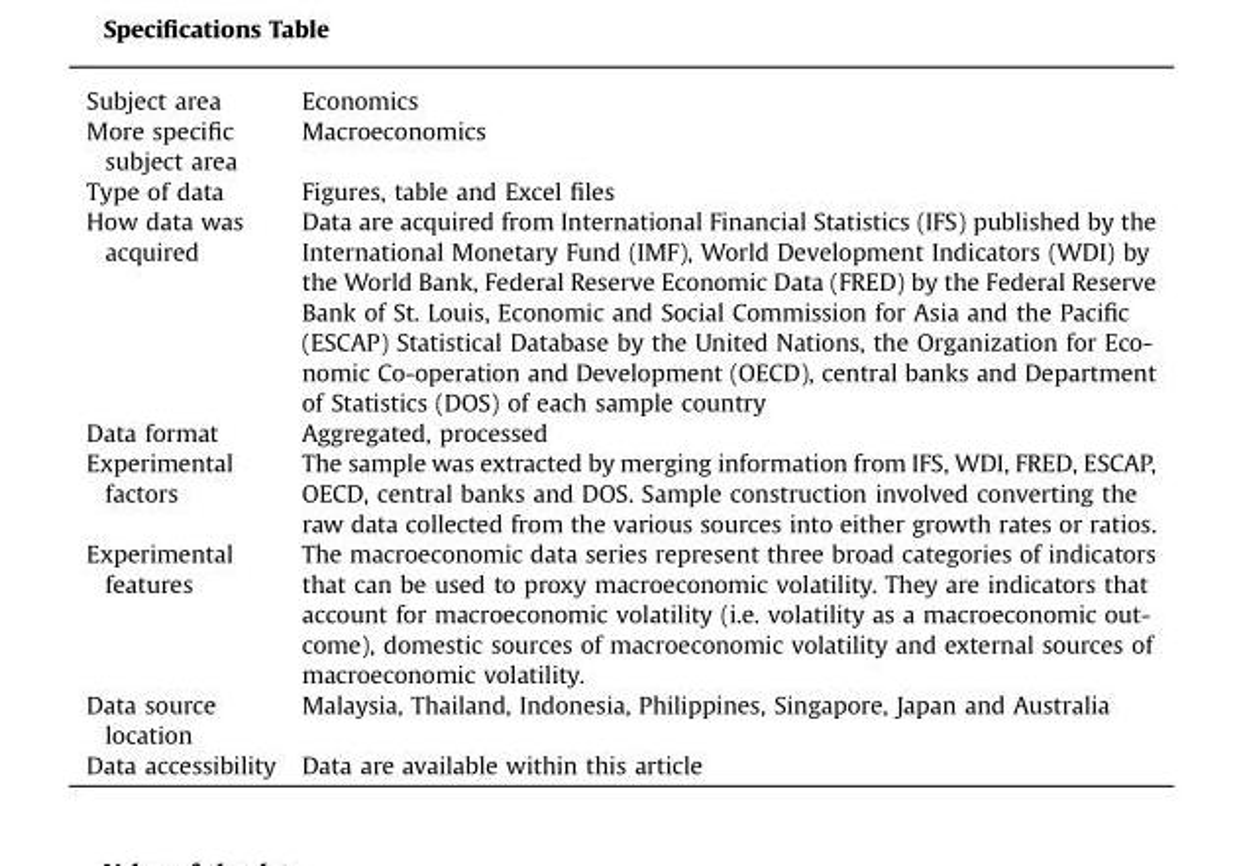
<table><thead><tr><td>Subject area</td><td>Economics</td></tr></thead><tbody><tr><td>More specific subject area</td><td>Macroeconomics</td></tr><tr><td>Type of data</td><td>Figures, table and Excel files</td></tr><tr><td>How data was acquired</td><td>Data are acquired from International Financial Statistics (IFS) published by the International Monetary Fund (IMF), World Development Indicators (WDI) by the World Bank, Federal Reserve Economic Data (FRED) by the Federal Reserve Bank of St. Louis, Economic and Social Commission for Asia and the Pacific (ESCAP) Statistical Database by the United Nations, the Organization for Eco- nomic Co-operation and Development (OECD), central banks and Department of Statistics (DOS) of each sample country</td></tr><tr><td>Data format</td><td>Aggregated, processed</td></tr><tr><td>Experimental factors</td><td>The sample was extracted by merging information from IFS, WDI, FRED, ESCAP, OECD, central banks and DOS. Sample construction involved converting the raw data collected from the various sources into either growth rates or ratios.</td></tr><tr><td>Experimental features</td><td>The macroeconomic data series represent three broad categories of indicators that can be used to proxy macroeconomic volatility. They are indicators that account for macroeconomic volatility (i.e. volatility as a macroeconomic out- come), domestic sources of macroeconomic volatility and external sources of macroeconomic volatility.</td></tr><tr><td>Data source location</td><td>Malaysia, Thailand, Indonesia, Philippines, Singapore, Japan and Australia</td></tr><tr><td>Data accessibility</td><td>Data are available within this article</td></tr></tbody></table>